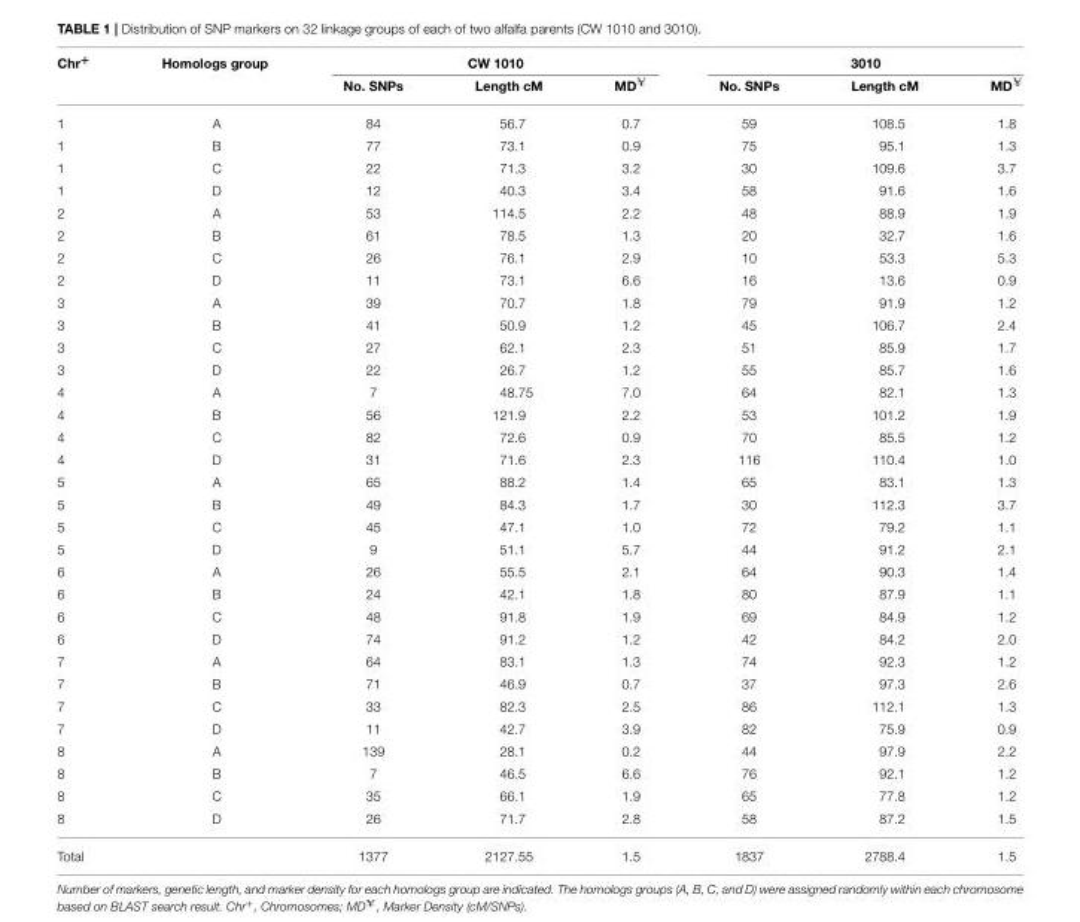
<table><thead><tr><td rowspan="2">Chr<sup>+</sup></td><td rowspan="2">Homologs group</td><td colspan="3">CW 1010</td><td colspan="3">3010</td></tr><tr><td>No. SNPs</td><td>Length cM</td><td>MD<sup>¥</sup></td><td>No. SNPs</td><td>Length cM</td><td>MD<sup>¥</sup></td></tr></thead><tbody><tr><td>1</td><td>A</td><td>84</td><td>56.7</td><td>0.7</td><td>59</td><td>108.5</td><td>1.8</td></tr><tr><td>1</td><td>B</td><td>77</td><td>73.1</td><td>0.9</td><td>75</td><td>95.1</td><td>1.3</td></tr><tr><td>1</td><td>C</td><td>22</td><td>71.3</td><td>3.2</td><td>30</td><td>109.6</td><td>3.7</td></tr><tr><td>1</td><td>D</td><td>12</td><td>40.3</td><td>3.4</td><td>58</td><td>91.6</td><td>1.6</td></tr><tr><td>2</td><td>A</td><td>53</td><td>114.5</td><td>2.2</td><td>48</td><td>88.9</td><td>1.9</td></tr><tr><td>2</td><td>B</td><td>61</td><td>78.5</td><td>1.3</td><td>20</td><td>32.7</td><td>1.6</td></tr><tr><td>2</td><td>C</td><td>26</td><td>76.1</td><td>2.9</td><td>10</td><td>53.3</td><td>5.3</td></tr><tr><td>2</td><td>D</td><td>11</td><td>73.1</td><td>6.6</td><td>16</td><td>13.6</td><td>0.9</td></tr><tr><td>3</td><td>A</td><td>39</td><td>70.7</td><td>1.8</td><td>79</td><td>91.9</td><td>1.2</td></tr><tr><td>3</td><td>B</td><td>41</td><td>50.9</td><td>1.2</td><td>45</td><td>106.7</td><td>2.4</td></tr><tr><td>3</td><td>C</td><td>27</td><td>62.1</td><td>2.3</td><td>51</td><td>85.9</td><td>1.7</td></tr><tr><td>3</td><td>D</td><td>22</td><td>26.7</td><td>1.2</td><td>55</td><td>85.7</td><td>1.6</td></tr><tr><td>4</td><td>A</td><td>7</td><td>48.75</td><td>7.0</td><td>64</td><td>82.1</td><td>1.3</td></tr><tr><td>4</td><td>B</td><td>56</td><td>121.9</td><td>2.2</td><td>53</td><td>101.2</td><td>1.9</td></tr><tr><td>4</td><td>C</td><td>82</td><td>72.6</td><td>0.9</td><td>70</td><td>85.5</td><td>1.2</td></tr><tr><td>4</td><td>D</td><td>31</td><td>71.6</td><td>2.3</td><td>116</td><td>110.4</td><td>1.0</td></tr><tr><td>5</td><td>A</td><td>65</td><td>88.2</td><td>1.4</td><td>65</td><td>83.1</td><td>1.3</td></tr><tr><td>5</td><td>B</td><td>49</td><td>84.3</td><td>1.7</td><td>30</td><td>112.3</td><td>3.7</td></tr><tr><td>5</td><td>C</td><td>45</td><td>47.1</td><td>1.0</td><td>72</td><td>79.2</td><td>1.1</td></tr><tr><td>5</td><td>D</td><td>9</td><td>51.1</td><td>5.7</td><td>44</td><td>91.2</td><td>2.1</td></tr><tr><td>6</td><td>A</td><td>26</td><td>55.5</td><td>2.1</td><td>64</td><td>90.3</td><td>1.4</td></tr><tr><td>6</td><td>B</td><td>24</td><td>42.1</td><td>1.8</td><td>80</td><td>87.9</td><td>1.1</td></tr><tr><td>6</td><td>C</td><td>48</td><td>91.8</td><td>1.9</td><td>69</td><td>84.9</td><td>1.2</td></tr><tr><td>6</td><td>D</td><td>74</td><td>91.2</td><td>1.2</td><td>42</td><td>84.2</td><td>2.0</td></tr><tr><td>7</td><td>A</td><td>64</td><td>83.1</td><td>1.3</td><td>74</td><td>92.3</td><td>1.2</td></tr><tr><td>7</td><td>B</td><td>71</td><td>46.9</td><td>0.7</td><td>37</td><td>97.3</td><td>2.6</td></tr><tr><td>7</td><td>C</td><td>33</td><td>82.3</td><td>2.5</td><td>86</td><td>112.1</td><td>1.3</td></tr><tr><td>7</td><td>D</td><td>11</td><td>42.7</td><td>3.9</td><td>82</td><td>75.9</td><td>0.9</td></tr><tr><td>8</td><td>A</td><td>139</td><td>28.1</td><td>0.2</td><td>44</td><td>97.9</td><td>2.2</td></tr><tr><td>8</td><td>B</td><td>7</td><td>46.5</td><td>6.6</td><td>76</td><td>92.1</td><td>1.2</td></tr><tr><td>8</td><td>C</td><td>35</td><td>66.1</td><td>1.9</td><td>65</td><td>77.8</td><td>1.2</td></tr><tr><td>8</td><td>D</td><td>26</td><td>71.7</td><td>2.8</td><td>58</td><td>87.2</td><td>1.5</td></tr><tr><td>Total</td><td></td><td>1377</td><td>2127.55</td><td>1.5</td><td>1837</td><td>2788.4</td><td>1.5</td></tr></tbody></table>